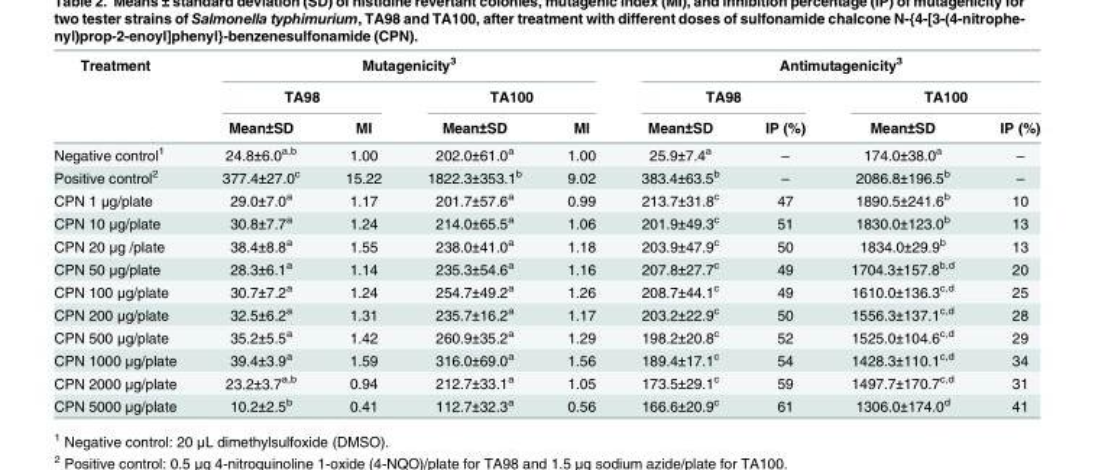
<table><thead><tr><td rowspan="3">Treatment</td><td colspan="4">Mutagenicity<sup>3</sup></td><td colspan="4">Antimutagenicity<sup>3</sup></td></tr><tr><td colspan="2">TA98</td><td colspan="2">TA100</td><td colspan="2">TA98</td><td colspan="2">TA100</td></tr><tr><td>Mean±SD</td><td>MI</td><td>Mean±SD</td><td>MI</td><td>Mean±SD</td><td>IP (%)</td><td>Mean±SD</td><td>IP (%)</td></tr></thead><tbody><tr><td>Negative control<sup>1</sup></td><td>24.8±6.0<sup>a,b</sup></td><td>1.00</td><td>202.0±61.0<sup>a</sup></td><td>1.00</td><td>25.9±7.4<sup>a</sup></td><td>–</td><td>174.0±38.0<sup>a</sup></td><td>–</td></tr><tr><td>Positive control<sup>2</sup></td><td>377.4±27.0<sup>c</sup></td><td>15.22</td><td>1822.3±353.1<sup>b</sup></td><td>9.02</td><td>383.4±63.5<sup>b</sup></td><td>–</td><td>2086.8±196.5<sup>b</sup></td><td>–</td></tr><tr><td>CPN 1 μg/plate</td><td>29.0±7.0<sup>a</sup></td><td>1.17</td><td>201.7±57.6<sup>a</sup></td><td>0.99</td><td>213.7±31.8<sup>c</sup></td><td>47</td><td>1890.5±241.6<sup>b</sup></td><td>10</td></tr><tr><td>CPN 10 μg/plate</td><td>30.8±7.7<sup>a</sup></td><td>1.24</td><td>214.0±65.5<sup>a</sup></td><td>1.06</td><td>201.9±49.3<sup>c</sup></td><td>51</td><td>1830.0±123.0<sup>b</sup></td><td>13</td></tr><tr><td>CPN 20 μg /plate</td><td>38.4±8.8<sup>a</sup></td><td>1.55</td><td>238.0±41.0<sup>a</sup></td><td>1.18</td><td>203.9±47.9<sup>c</sup></td><td>50</td><td>1834.0±29.9<sup>b</sup></td><td>13</td></tr><tr><td>CPN 50 μg/plate</td><td>28.3±6.1<sup>a</sup></td><td>1.14</td><td>235.3±54.6<sup>a</sup></td><td>1.16</td><td>207.8±27.7<sup>c</sup></td><td>49</td><td>1704.3±157.8<sup>b,d</sup></td><td>20</td></tr><tr><td>CPN 100 μg/plate</td><td>30.7±7.2<sup>a</sup></td><td>1.24</td><td>254.7±49.2<sup>a</sup></td><td>1.26</td><td>208.7±44.1<sup>c</sup></td><td>49</td><td>1610.0±136.3<sup>c,d</sup></td><td>25</td></tr><tr><td>CPN 200 μg/plate</td><td>32.5±6.2<sup>a</sup></td><td>1.31</td><td>235.7±16.2<sup>a</sup></td><td>1.17</td><td>203.2±22.9<sup>c</sup></td><td>50</td><td>1556.3±137.1<sup>c,d</sup></td><td>28</td></tr><tr><td>CPN 500 μg/plate</td><td>35.2±5.5<sup>a</sup></td><td>1.42</td><td>260.9±35.2<sup>a</sup></td><td>1.29</td><td>198.2±20.8<sup>c</sup></td><td>52</td><td>1525.0±104.6<sup>c,d</sup></td><td>29</td></tr><tr><td>CPN 1000 μg/plate</td><td>39.4±3.9<sup>a</sup></td><td>1.59</td><td>316.0±69.0<sup>a</sup></td><td>1.56</td><td>189.4±17.1<sup>c</sup></td><td>54</td><td>1428.3±110.1<sup>c,d</sup></td><td>34</td></tr><tr><td>CPN 2000 μg/plate</td><td>23.2±3.7<sup>a,b</sup></td><td>0.94</td><td>212.7±33.1<sup>a</sup></td><td>1.05</td><td>173.5±29.1<sup>c</sup></td><td>59</td><td>1497.7±170.7<sup>c,d</sup></td><td>31</td></tr><tr><td>CPN 5000 μg/plate</td><td>10.2±2.5<sup>b</sup></td><td>0.41</td><td>112.7±32.3<sup>a</sup></td><td>0.56</td><td>166.6±20.9<sup>c</sup></td><td>61</td><td>1306.0±174.0<sup>d</sup></td><td>41</td></tr></tbody></table>